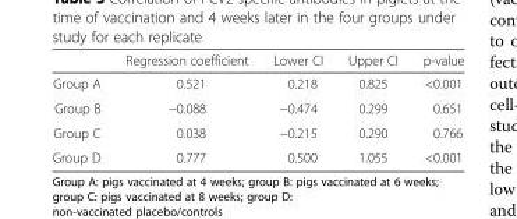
<table><thead><tr><td></td><td>Regression coefficient</td><td>Lower CI</td><td>Upper CI</td><td>p-value</td></tr></thead><tbody><tr><td>Group A</td><td>0.521</td><td>0.218</td><td>0.825</td><td>&lt;0.001</td></tr><tr><td>Group B</td><td>−0.088</td><td>−0.474</td><td>0.299</td><td>0.651</td></tr><tr><td>Group C</td><td>0.038</td><td>−0.215</td><td>0.290</td><td>0.766</td></tr><tr><td>Group D</td><td>0.777</td><td>0.500</td><td>1.055</td><td>&lt;0.001</td></tr></tbody></table>